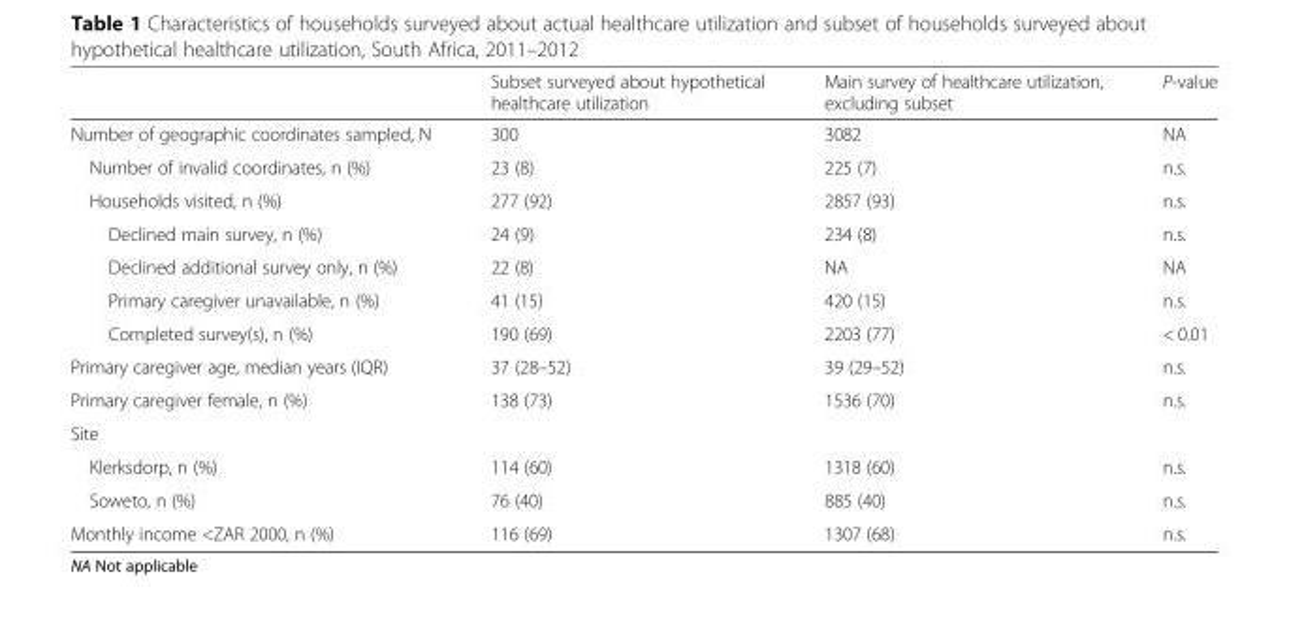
<table><thead><tr><td></td><td>Subset surveyed about hypothetical healthcare utilization</td><td>Main survey of healthcare utilization, excluding subset</td><td>P-value</td></tr></thead><tbody><tr><td>Number of geographic coordinates sampled, N</td><td>300</td><td>3082</td><td>NA</td></tr><tr><td>Number of invalid coordinates, n (%)</td><td>23 (8)</td><td>225 (7)</td><td>n.s.</td></tr><tr><td>Households visited, n (%)</td><td>277 (92)</td><td>2857 (93)</td><td>n.s.</td></tr><tr><td>Declined main survey, n (%)</td><td>24 (9)</td><td>234 (8)</td><td>n.s.</td></tr><tr><td>Declined additional survey only, n (%)</td><td>22 (8)</td><td>NA</td><td>NA</td></tr><tr><td>Primary caregiver unavailable, n (%)</td><td>41 (15)</td><td>420 (15)</td><td>n.s.</td></tr><tr><td>Completed survey(s), n (%)</td><td>190 (69)</td><td>2203 (77)</td><td>&lt; 0.01</td></tr><tr><td>Primary caregiver age, median years (IQR)</td><td>37 (28–52)</td><td>39 (29–52)</td><td>n.s.</td></tr><tr><td>Primary caregiver female, n (%)</td><td>138 (73)</td><td>1536 (70)</td><td>n.s.</td></tr><tr><td colspan="4">Site</td></tr><tr><td>Klerksdorp, n (%)</td><td>114 (60)</td><td>1318 (60)</td><td>n.s.</td></tr><tr><td>Soweto, n (%)</td><td>76 (40)</td><td>885 (40)</td><td>n.s.</td></tr><tr><td>Monthly income &lt;ZAR 2000, n (%)</td><td>116 (69)</td><td>1307 (68)</td><td>n.s.</td></tr></tbody></table>